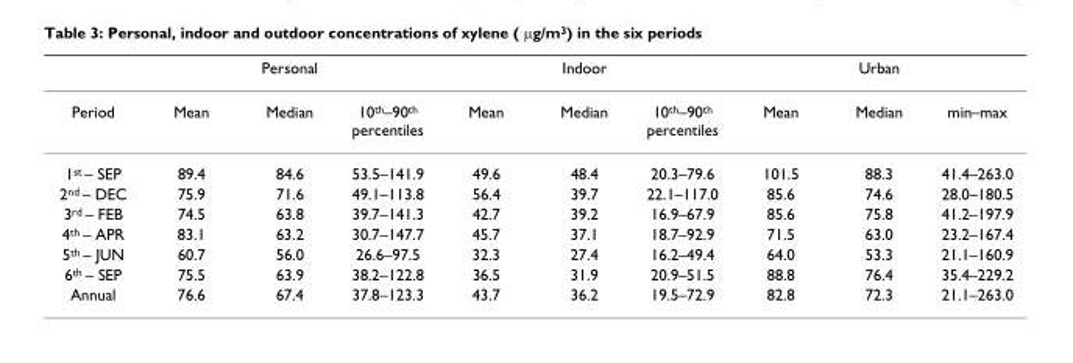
<table><thead><tr><td rowspan="2">Period</td><td colspan="3">Personal</td><td colspan="3">Indoor</td><td colspan="3">Urban</td></tr><tr><td>Mean</td><td>Median</td><td>10th–90th percentiles</td><td>Mean</td><td>Median</td><td>10th–90th percentiles</td><td>Mean</td><td>Median</td><td>min–max</td></tr></thead><tbody><tr><td>1st – SEP</td><td>89.4</td><td>84.6</td><td>53.5–141.9</td><td>49.6</td><td>48.4</td><td>20.3–79.6</td><td>101.5</td><td>88.3</td><td>41.4–263.0</td></tr><tr><td>2nd – DEC</td><td>75.9</td><td>71.6</td><td>49.1–113.8</td><td>56.4</td><td>39.7</td><td>22.1–117.0</td><td>85.6</td><td>74.6</td><td>28.0–180.5</td></tr><tr><td>3rd – FEB</td><td>74.5</td><td>63.8</td><td>39.7–141.3</td><td>42.7</td><td>39.2</td><td>16.9–67.9</td><td>85.6</td><td>75.8</td><td>41.2–197.9</td></tr><tr><td>4th – APR</td><td>83.1</td><td>63.2</td><td>30.7–147.7</td><td>45.7</td><td>37.1</td><td>18.7–92.9</td><td>71.5</td><td>63.0</td><td>23.2–167.4</td></tr><tr><td>5th – JUN</td><td>60.7</td><td>56.0</td><td>26.6–97.5</td><td>32.3</td><td>27.4</td><td>16.2–49.4</td><td>64.0</td><td>53.3</td><td>21.1–160.9</td></tr><tr><td>6th – SEP</td><td>75.5</td><td>63.9</td><td>38.2–122.8</td><td>36.5</td><td>31.9</td><td>20.9–51.5</td><td>88.8</td><td>76.4</td><td>35.4–229.2</td></tr><tr><td>Annual</td><td>76.6</td><td>67.4</td><td>37.8–123.3</td><td>43.7</td><td>36.2</td><td>19.5–72.9</td><td>82.8</td><td>72.3</td><td>21.1–263.0</td></tr></tbody></table>